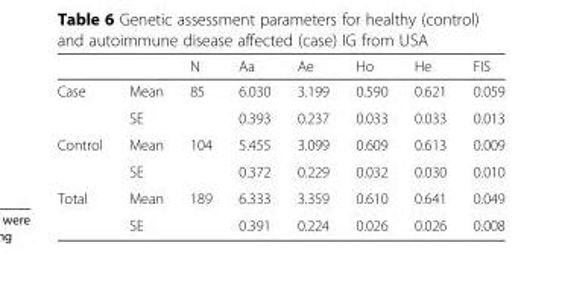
<table><thead><tr><td></td><td></td><td>N</td><td>Aa</td><td>Ae</td><td>Ho</td><td>He</td><td>FIS</td></tr></thead><tbody><tr><td rowspan="2">Case</td><td>Mean</td><td>85</td><td>6.030</td><td>3.199</td><td>0.590</td><td>0.621</td><td>0.059</td></tr><tr><td>SE</td><td></td><td>0.393</td><td>0.237</td><td>0.033</td><td>0.033</td><td>0.013</td></tr><tr><td rowspan="2">Control</td><td>Mean</td><td>104</td><td>5.455</td><td>3.099</td><td>0.609</td><td>0.613</td><td>0.009</td></tr><tr><td>SE</td><td></td><td>0.372</td><td>0.229</td><td>0.032</td><td>0.030</td><td>0.010</td></tr><tr><td rowspan="2">Total</td><td>Mean</td><td>189</td><td>6.333</td><td>3.359</td><td>0.610</td><td>0.641</td><td>0.049</td></tr><tr><td>SE</td><td></td><td>0.391</td><td>0.224</td><td>0.026</td><td>0.026</td><td>0.008</td></tr></tbody></table>